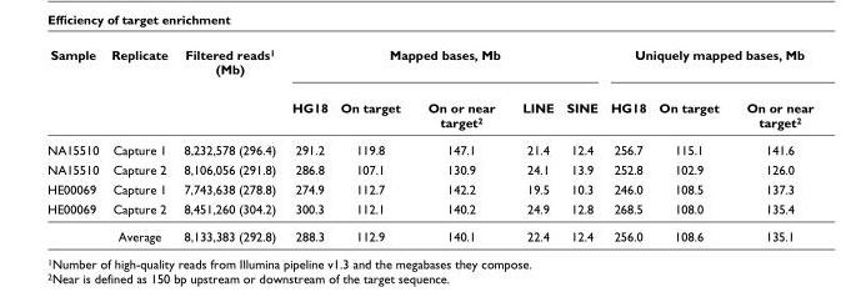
<table><thead><tr><td rowspan="2">Sample</td><td rowspan="2">Replicate</td><td rowspan="2">Filtered reads<sup>1</sup> (Mb)</td><td colspan="5">Mapped bases, Mb</td><td colspan="3">Uniquely mapped bases, Mb</td></tr><tr><td>HG18</td><td>On target</td><td>On or near target<sup>2</sup></td><td>LINE</td><td>SINE</td><td>HG18</td><td>On target</td><td>On or near target<sup>2</sup></td></tr></thead><tbody><tr><td>NA15510</td><td>Capture 1</td><td>8,232,578 (296.4)</td><td>291.2</td><td>119.8</td><td>147.1</td><td>21.4</td><td>12.4</td><td>256.7</td><td>115.1</td><td>141.6</td></tr><tr><td>NA15510</td><td>Capture 2</td><td>8,106,056 (291.8)</td><td>286.8</td><td>107.1</td><td>130.9</td><td>24.1</td><td>13.9</td><td>252.8</td><td>102.9</td><td>126.0</td></tr><tr><td>HE00069</td><td>Capture 1</td><td>7,743,638 (278.8)</td><td>274.9</td><td>112.7</td><td>142.2</td><td>19.5</td><td>10.3</td><td>246.0</td><td>108.5</td><td>137.3</td></tr><tr><td rowspan="2">HE00069</td><td>Capture 2</td><td>8,451,260 (304.2)</td><td>300.3</td><td>112.1</td><td>140.2</td><td>24.9</td><td>12.8</td><td>268.5</td><td>108.0</td><td>135.4</td></tr><tr><td>Average</td><td>8,133,383 (292.8)</td><td>288.3</td><td>112.9</td><td>140.1</td><td>22.4</td><td>12.4</td><td>256.0</td><td>108.6</td><td>135.1</td></tr></tbody></table>